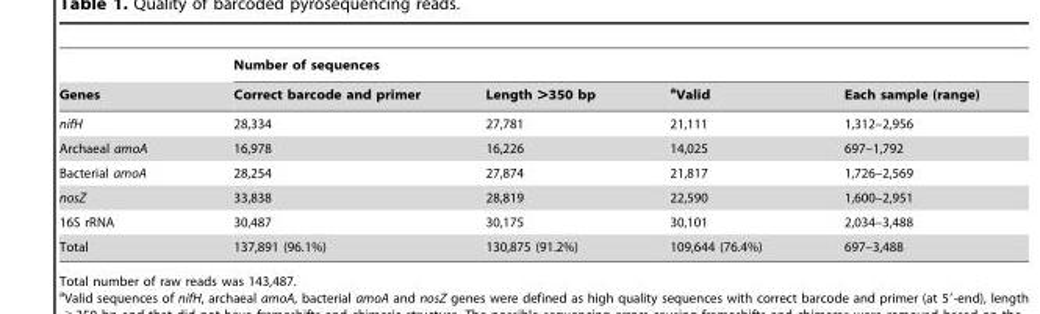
<table><thead><tr><td rowspan="2">Genes</td><td colspan="4">Number of sequences</td></tr><tr><td>Correct barcode and primer</td><td>Length &gt;350 bp</td><td>aValid</td><td>Each sample (range)</td></tr></thead><tbody><tr><td>nifH</td><td>28,334</td><td>27,781</td><td>21,111</td><td>1,312–2,956</td></tr><tr><td>Archaeal amoA</td><td>16,978</td><td>16,226</td><td>14,025</td><td>697–1,792</td></tr><tr><td>Bacterial amoA</td><td>28,254</td><td>27,874</td><td>21,817</td><td>1,726–2,569</td></tr><tr><td>nosZ</td><td>33,838</td><td>28,819</td><td>22,590</td><td>1,600–2,951</td></tr><tr><td>16S rRNA</td><td>30,487</td><td>30,175</td><td>30,101</td><td>2,034–3,488</td></tr><tr><td>Total</td><td>137,891 (96.1%)</td><td>130,875 (91.2%)</td><td>109,644 (76.4%)</td><td>697–3,488</td></tr></tbody></table>